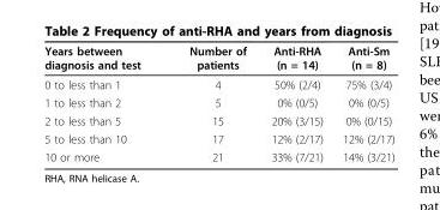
<table><thead><tr><td>Years between diagnosis and test</td><td>Number of patients</td><td>Anti-RHA (n = 14)</td><td>Anti-Sm (n = 8)</td></tr></thead><tbody><tr><td>0 to less than 1</td><td>4</td><td>50% (2/4)</td><td>75% (3/4)</td></tr><tr><td>1 to less than 2</td><td>5</td><td>0% (0/5)</td><td>0% (0/5)</td></tr><tr><td>2 to less than 5</td><td>15</td><td>20% (3/15)</td><td>0% (0/15)</td></tr><tr><td>5 to less than 10</td><td>17</td><td>12% (2/17)</td><td>12% (2/17)</td></tr><tr><td>10 or more</td><td>21</td><td>33% (7/21)</td><td>14% (3/21)</td></tr></tbody></table>